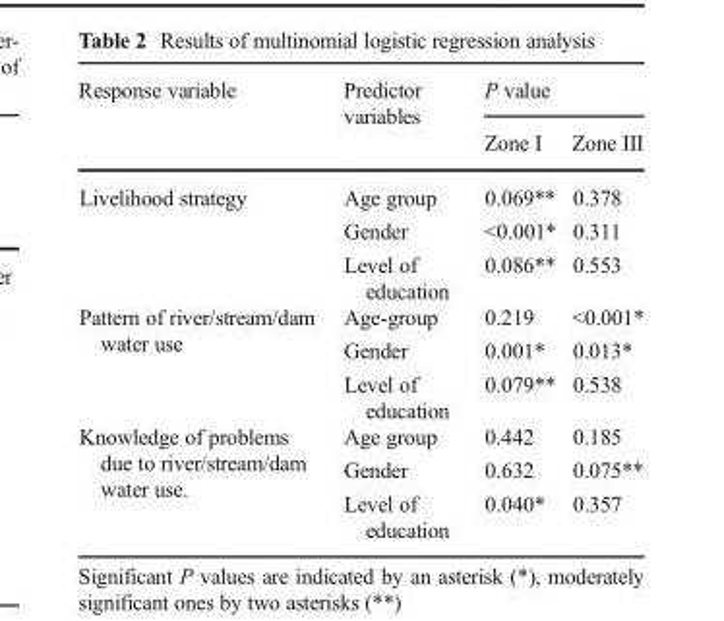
<table><thead><tr><td rowspan="2">Response variable</td><td rowspan="2">Predictor variables</td><td colspan="2">P value</td></tr><tr><td>Zone I</td><td>Zone III</td></tr></thead><tbody><tr><td rowspan="3">Livelihood strategy</td><td>Age group</td><td>0.069**</td><td>0.378</td></tr><tr><td>Gender</td><td>&lt;0.001*</td><td>0.311</td></tr><tr><td>Level of education</td><td>0.086**</td><td>0.553</td></tr><tr><td rowspan="3">Pattern of river/stream/dam water use</td><td>Age-group</td><td>0.219</td><td>&lt;0.001*</td></tr><tr><td>Gender</td><td>0.001*</td><td>0.013*</td></tr><tr><td>Level of education</td><td>0.079**</td><td>0.538</td></tr><tr><td rowspan="3">Knowledge of problems due to river/stream/dam water use.</td><td>Age group</td><td>0.442</td><td>0.185</td></tr><tr><td>Gender</td><td>0.632</td><td>0.075**</td></tr><tr><td>Level of education</td><td>0.040*</td><td>0.357</td></tr></tbody></table>